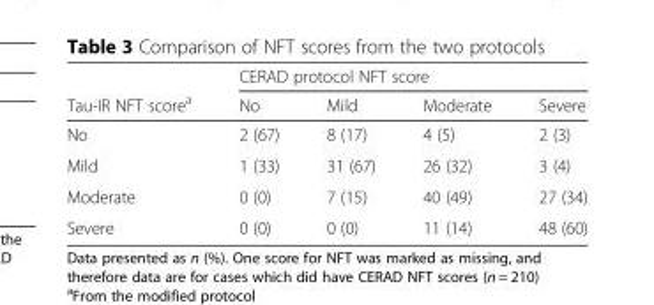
<table><thead><tr><td rowspan="2">Tau-IR NFT score<sup>a</sup></td><td colspan="4">CERAD protocol NFT score</td></tr><tr><td>No</td><td>Mild</td><td>Moderate</td><td>Severe</td></tr></thead><tbody><tr><td>No</td><td>2 (67)</td><td>8 (17)</td><td>4 (5)</td><td>2 (3)</td></tr><tr><td>Mild</td><td>1 (33)</td><td>31 (67)</td><td>26 (32)</td><td>3 (4)</td></tr><tr><td>Moderate</td><td>0 (0)</td><td>7 (15)</td><td>40 (49)</td><td>27 (34)</td></tr><tr><td>Severe</td><td>0 (0)</td><td>0 (0)</td><td>11 (14)</td><td>48 (60)</td></tr></tbody></table>